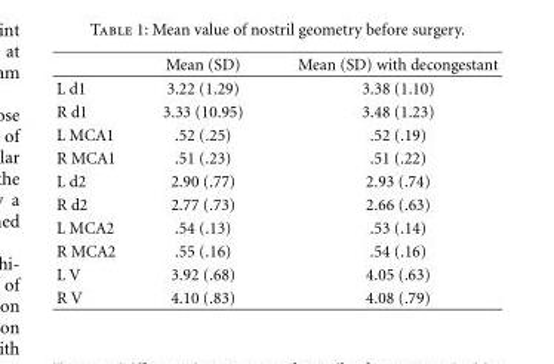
<table><thead><tr><td></td><td>Mean (SD)</td><td>Mean (SD) with decongestant</td></tr></thead><tbody><tr><td>L d1</td><td>3.22 (1.29)</td><td>3.38 (1.10)</td></tr><tr><td>R d1</td><td>3.33 (10.95)</td><td>3.48 (1.23)</td></tr><tr><td>L MCA1</td><td>.52 (.25)</td><td>.52 (.19)</td></tr><tr><td>R MCA1</td><td>.51 (.23)</td><td>.51 (.22)</td></tr><tr><td>L d2</td><td>2.90 (.77)</td><td>2.93 (.74)</td></tr><tr><td>R d2</td><td>2.77 (.73)</td><td>2.66 (.63)</td></tr><tr><td>L MCA2</td><td>.54 (.13)</td><td>.53 (.14)</td></tr><tr><td>R MCA2</td><td>.55 (.16)</td><td>.54 (.16)</td></tr><tr><td>L V</td><td>3.92 (.68)</td><td>4.05 (.63)</td></tr><tr><td>R V</td><td>4.10 (.83)</td><td>4.08 (.79)</td></tr></tbody></table>